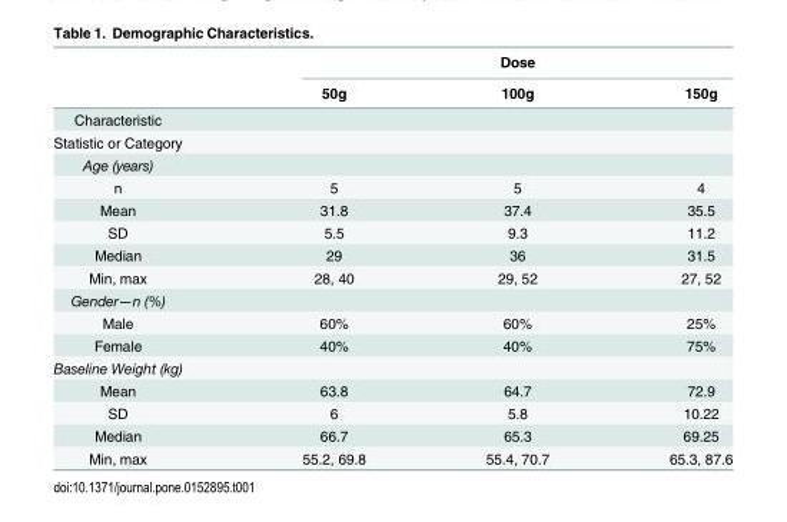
<table><thead><tr><td rowspan="2"></td><td colspan="3">Dose</td></tr><tr><td>50g</td><td>100g</td><td>150g</td></tr></thead><tbody><tr><td colspan="4">Characteristic</td></tr><tr><td colspan="4">Statistic or Category</td></tr><tr><td colspan="4">Age (years)</td></tr><tr><td>n</td><td>5</td><td>5</td><td>4</td></tr><tr><td>Mean</td><td>31.8</td><td>37.4</td><td>35.5</td></tr><tr><td>SD</td><td>5.5</td><td>9.3</td><td>11.2</td></tr><tr><td>Median</td><td>29</td><td>36</td><td>31.5</td></tr><tr><td>Min, max</td><td>28, 40</td><td>29, 52</td><td>27, 52</td></tr><tr><td colspan="4">Gender—n (%)</td></tr><tr><td>Male</td><td>60%</td><td>60%</td><td>25%</td></tr><tr><td>Female</td><td>40%</td><td>40%</td><td>75%</td></tr><tr><td colspan="4">Baseline Weight (kg)</td></tr><tr><td>Mean</td><td>63.8</td><td>64.7</td><td>72.9</td></tr><tr><td>SD</td><td>6</td><td>5.8</td><td>10.22</td></tr><tr><td>Median</td><td>66.7</td><td>65.3</td><td>69.25</td></tr><tr><td>Min, max</td><td>55.2, 69.8</td><td>55.4, 70.7</td><td>65.3, 87.6</td></tr></tbody></table>